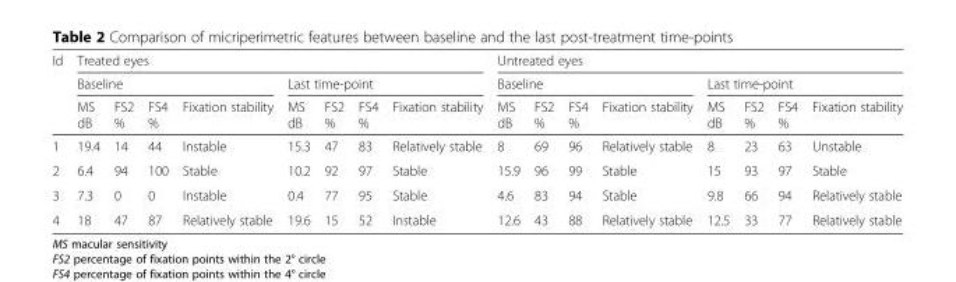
<table><thead><tr><td rowspan="3">Id</td><td colspan="8">Treated eyes</td><td colspan="8">Untreated eyes</td></tr><tr><td colspan="4">Baseline</td><td colspan="4">Last time-point</td><td colspan="4">Baseline</td><td colspan="4">Last time-point</td></tr><tr><td>MS dB</td><td>FS2 %</td><td>FS4 %</td><td>Fixation stability</td><td>MS dB</td><td>FS2 %</td><td>FS4 %</td><td>Fixation stability</td><td>MS dB</td><td>FS2 %</td><td>FS4 %</td><td>Fixation stability</td><td>MS dB</td><td>FS2 %</td><td>FS4 %</td><td>Fixation stability</td></tr></thead><tbody><tr><td>1</td><td>19.4</td><td>14</td><td>44</td><td>Instable</td><td>15.3</td><td>47</td><td>83</td><td>Relatively stable</td><td>8</td><td>69</td><td>96</td><td>Relatively stable</td><td>8</td><td>23</td><td>63</td><td>Unstable</td></tr><tr><td>2</td><td>6.4</td><td>94</td><td>100</td><td>Stable</td><td>10.2</td><td>92</td><td>97</td><td>Stable</td><td>15.9</td><td>96</td><td>99</td><td>Stable</td><td>15</td><td>93</td><td>97</td><td>Stable</td></tr><tr><td>3</td><td>7.3</td><td>0</td><td>0</td><td>Instable</td><td>0.4</td><td>77</td><td>95</td><td>Stable</td><td>4.6</td><td>83</td><td>94</td><td>Stable</td><td>9.8</td><td>66</td><td>94</td><td>Relatively stable</td></tr><tr><td>4</td><td>18</td><td>47</td><td>87</td><td>Relatively stable</td><td>19.6</td><td>15</td><td>52</td><td>Instable</td><td>12.6</td><td>43</td><td>88</td><td>Relatively stable</td><td>12.5</td><td>33</td><td>77</td><td>Relatively stable</td></tr></tbody></table>